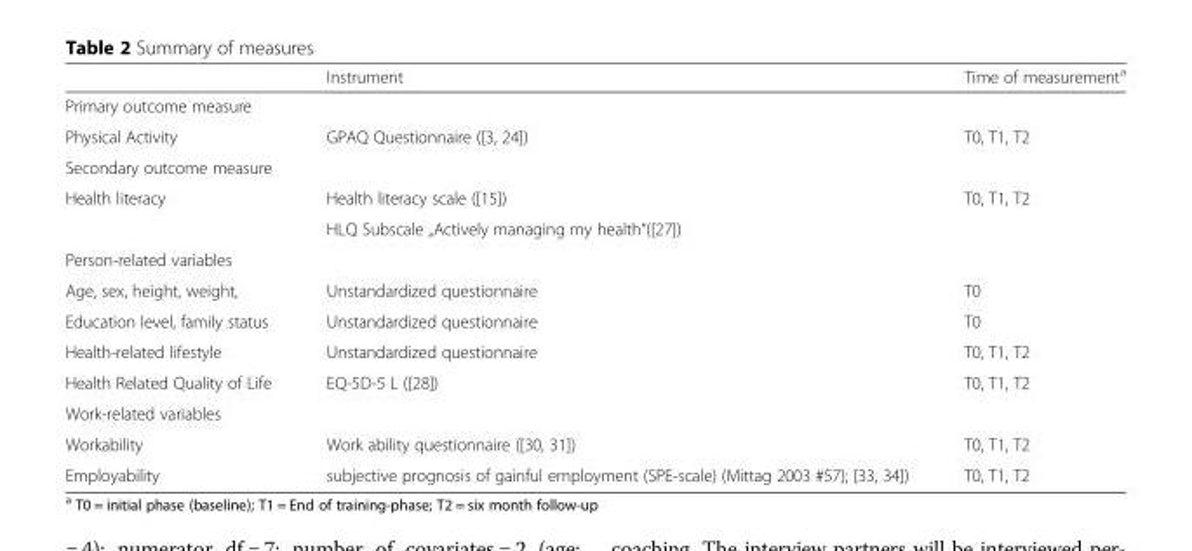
<table><thead><tr><td></td><td>Instrument</td><td>Time of measurement<sup>a</sup></td></tr></thead><tbody><tr><td colspan="3">Primary outcome measure</td></tr><tr><td>Physical Activity</td><td>GPAQ Questionnaire ([3, 24])</td><td>T0, T1, T2</td></tr><tr><td colspan="3">Secondary outcome measure</td></tr><tr><td rowspan="2">Health literacy</td><td>Health literacy scale ([15])</td><td rowspan="2">T0, T1, T2</td></tr><tr><td>HLQ Subscale „Actively managing my health“([27])</td></tr><tr><td colspan="3">Person-related variables</td></tr><tr><td>Age, sex, height, weight,</td><td>Unstandardized questionnaire</td><td>T0</td></tr><tr><td>Education level, family status</td><td>Unstandardized questionnaire</td><td>T0</td></tr><tr><td>Health-related lifestyle</td><td>Unstandardized questionnaire</td><td>T0, T1, T2</td></tr><tr><td>Health Related Quality of Life</td><td>EQ-5D-5 L ([28])</td><td>T0, T1, T2</td></tr><tr><td colspan="3">Work-related variables</td></tr><tr><td>Workability</td><td>Work ability questionnaire ([30, 31])</td><td>T0, T1, T2</td></tr><tr><td>Employability</td><td>subjective prognosis of gainful employment (SPE-scale) (Mittag 2003 #57}; [33, 34])</td><td>T0, T1, T2</td></tr></tbody></table>